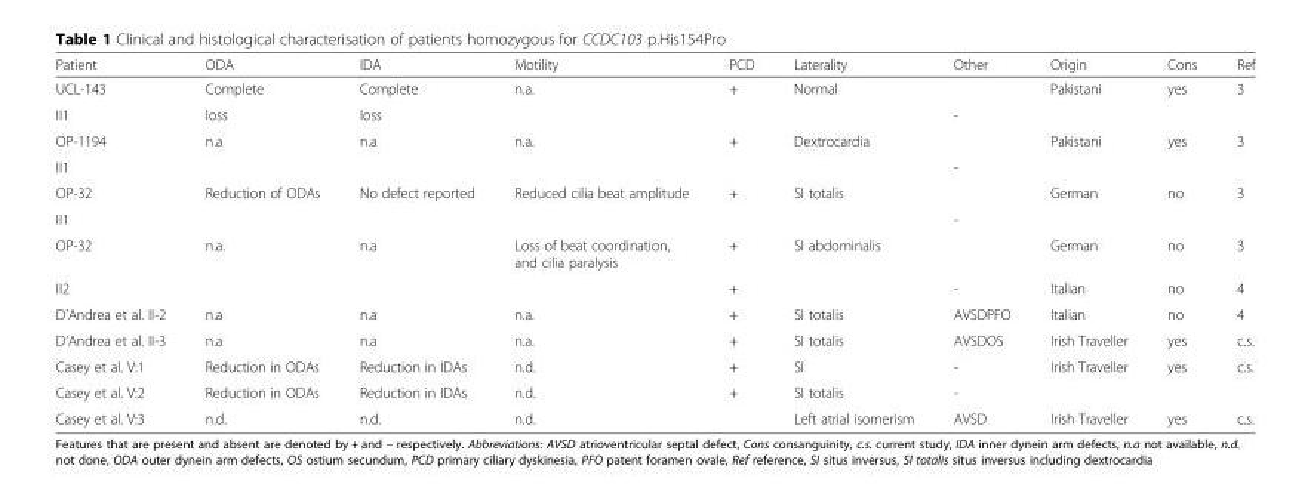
<table><thead><tr><td>Patient</td><td>ODA</td><td>IDA</td><td>Motility</td><td>PCD</td><td>Laterality</td><td>Other</td><td>Origin</td><td>Cons</td><td>Ref</td></tr></thead><tbody><tr><td>UCL-143</td><td>Complete</td><td>Complete</td><td>n.a.</td><td>+</td><td>Normal</td><td></td><td>Pakistani</td><td>yes</td><td>3</td></tr><tr><td>II1</td><td>loss</td><td>loss</td><td></td><td></td><td></td><td>-</td><td></td><td></td><td></td></tr><tr><td>OP-1194</td><td>n.a</td><td>n.a</td><td>n.a.</td><td>+</td><td>Dextrocardia</td><td></td><td>Pakistani</td><td>yes</td><td>3</td></tr><tr><td>II1</td><td></td><td></td><td></td><td></td><td></td><td>-</td><td></td><td></td><td></td></tr><tr><td>OP-32</td><td>Reduction of ODAs</td><td>No defect reported</td><td>Reduced cilia beat amplitude</td><td>+</td><td>SI totalis</td><td></td><td>German</td><td>no</td><td>3</td></tr><tr><td>II1</td><td></td><td></td><td></td><td></td><td></td><td>-</td><td></td><td></td><td></td></tr><tr><td>OP-32</td><td>n.a.</td><td>n.a</td><td>Loss of beat coordination, and cilia paralysis</td><td>+</td><td>SI abdominalis</td><td></td><td>German</td><td>no</td><td>3</td></tr><tr><td>II2</td><td></td><td></td><td></td><td>+</td><td></td><td>-</td><td>Italian</td><td>no</td><td>4</td></tr><tr><td>D’Andrea et al. II-2</td><td>n.a</td><td>n.a</td><td>n.a.</td><td>+</td><td>SI totalis</td><td>AVSDPFO</td><td>Italian</td><td>no</td><td>4</td></tr><tr><td>D’Andrea et al. II-3</td><td>n.a</td><td>n.a</td><td>n.a.</td><td>+</td><td>SI totalis</td><td>AVSDOS</td><td>Irish Traveller</td><td>yes</td><td>c.s.</td></tr><tr><td>Casey et al. V:1</td><td>Reduction in ODAs</td><td>Reduction in IDAs</td><td>n.d.</td><td>+</td><td>SI</td><td>-</td><td>Irish Traveller</td><td>yes</td><td>c.s.</td></tr><tr><td>Casey et al. V:2</td><td>Reduction in ODAs</td><td>Reduction in IDAs</td><td>n.d.</td><td>+</td><td>SI totalis</td><td>-</td><td></td><td></td><td></td></tr><tr><td>Casey et al. V:3</td><td>n.d.</td><td>n.d.</td><td>n.d.</td><td></td><td>Left atrial isomerism</td><td>AVSD</td><td>Irish Traveller</td><td>yes</td><td>c.s.</td></tr></tbody></table>